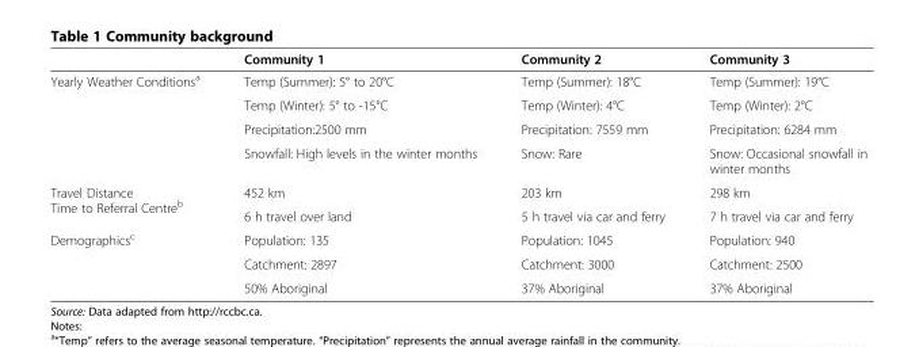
<table><thead><tr><td></td><td>Community 1</td><td>Community 2</td><td>Community 3</td></tr></thead><tbody><tr><td rowspan="4">Yearly Weather Conditions<sup>a</sup></td><td>Temp (Summer): 5° to 20°C</td><td>Temp (Summer): 18°C</td><td>Temp (Summer): 19°C</td></tr><tr><td>Temp (Winter): 5° to -15°C</td><td>Temp (Winter): 4°C</td><td>Temp (Winter): 2°C</td></tr><tr><td>Precipitation:2500 mm</td><td>Precipitation: 7559 mm</td><td>Precipitation: 6284 mm</td></tr><tr><td>Snowfall: High levels in the winter months</td><td>Snow: Rare</td><td>Snow: Occasional snowfall in winter months</td></tr><tr><td rowspan="2">Travel Distance Time to Referral Centre<sup>b</sup></td><td>452 km</td><td>203 km</td><td>298 km</td></tr><tr><td>6 h travel over land</td><td>5 h travel via car and ferry</td><td>7 h travel via car and ferry</td></tr><tr><td rowspan="3">Demographics<sup>c</sup></td><td>Population: 135</td><td>Population: 1045</td><td>Population: 940</td></tr><tr><td>Catchment: 2897</td><td>Catchment: 3000</td><td>Catchment: 2500</td></tr><tr><td>50% Aboriginal</td><td>37% Aboriginal</td><td>37% Aboriginal</td></tr></tbody></table>